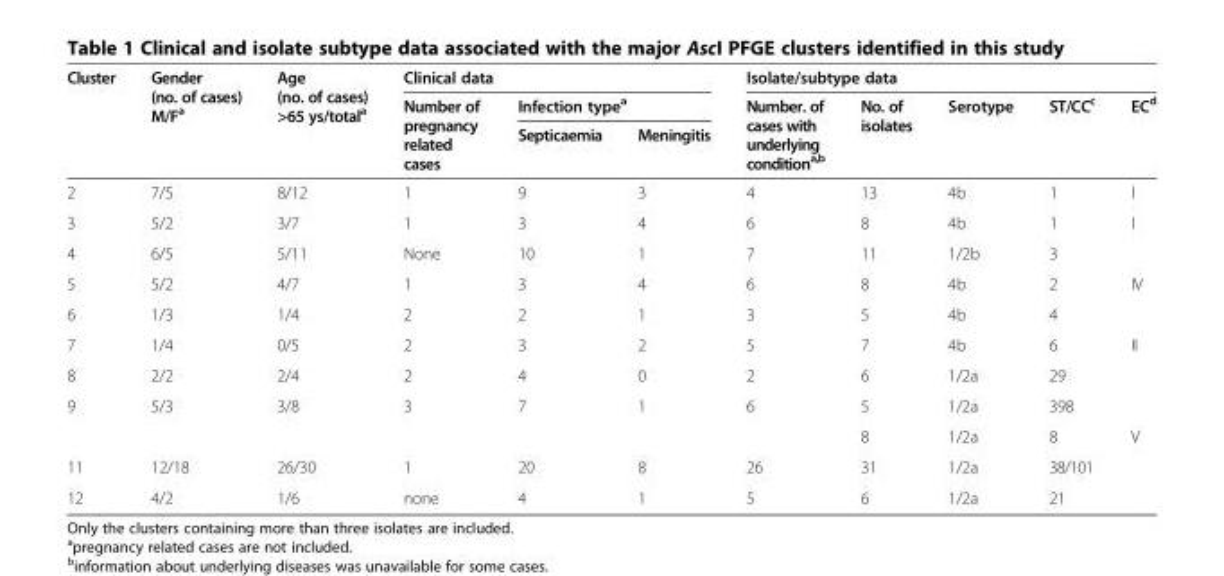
<table><thead><tr><td rowspan="3">Cluster</td><td rowspan="3">Gender (no. of cases) M/F<sup>a</sup></td><td rowspan="3">Age (no. of cases) &gt;65 ys/total<sup>a</sup></td><td colspan="3">Clinical data</td><td colspan="5">Isolate/subtype data</td></tr><tr><td rowspan="2">Number of pregnancy related cases</td><td colspan="2">Infection type<sup>a</sup></td><td rowspan="2">Number. of cases with underlying condition<sup>a,b</sup></td><td rowspan="2">No. of isolates</td><td rowspan="2">Serotype</td><td rowspan="2">ST/CC<sup>c</sup></td><td rowspan="2">EC<sup>d</sup></td></tr><tr><td>Septicaemia</td><td>Meningitis</td></tr></thead><tbody><tr><td>2</td><td>7/5</td><td>8/12</td><td>1</td><td>9</td><td>3</td><td>4</td><td>13</td><td>4b</td><td>1</td><td>I</td></tr><tr><td>3</td><td>5/2</td><td>3/7</td><td>1</td><td>3</td><td>4</td><td>6</td><td>8</td><td>4b</td><td>1</td><td>I</td></tr><tr><td>4</td><td>6/5</td><td>5/11</td><td>None</td><td>10</td><td>1</td><td>7</td><td>11</td><td>1/2b</td><td>3</td><td></td></tr><tr><td>5</td><td>5/2</td><td>4/7</td><td>1</td><td>3</td><td>4</td><td>6</td><td>8</td><td>4b</td><td>2</td><td>IV</td></tr><tr><td>6</td><td>1/3</td><td>1/4</td><td>2</td><td>2</td><td>1</td><td>3</td><td>5</td><td>4b</td><td>4</td><td></td></tr><tr><td>7</td><td>1/4</td><td>0/5</td><td>2</td><td>3</td><td>2</td><td>5</td><td>7</td><td>4b</td><td>6</td><td>II</td></tr><tr><td>8</td><td>2/2</td><td>2/4</td><td>2</td><td>4</td><td>0</td><td>2</td><td>6</td><td>1/2a</td><td>29</td><td></td></tr><tr><td rowspan="2">9</td><td rowspan="2">5/3</td><td rowspan="2">3/8</td><td rowspan="2">3</td><td rowspan="2">7</td><td rowspan="2">1</td><td rowspan="2">6</td><td>5</td><td>1/2a</td><td>398</td><td></td></tr><tr><td>8</td><td>1/2a</td><td>8</td><td>V</td></tr><tr><td>11</td><td>12/18</td><td>26/30</td><td>1</td><td>20</td><td>8</td><td>26</td><td>31</td><td>1/2a</td><td>38/101</td><td></td></tr><tr><td>12</td><td>4/2</td><td>1/6</td><td>none</td><td>4</td><td>1</td><td>5</td><td>6</td><td>1/2a</td><td>21</td><td></td></tr></tbody></table>